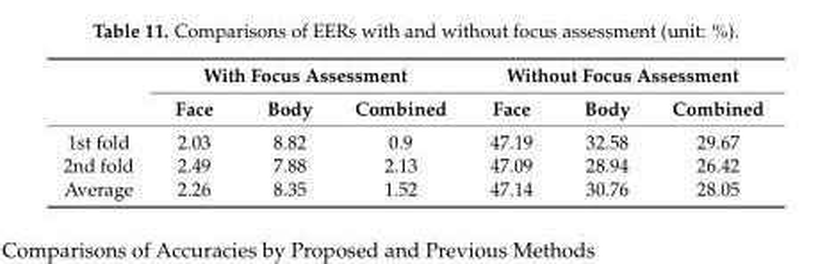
<table><thead><tr><td rowspan="2"></td><td colspan="3">With Focus Assessment</td><td colspan="3">Without Focus Assessment</td></tr><tr><td>Face</td><td>Body</td><td>Combined</td><td>Face</td><td>Body</td><td>Combined</td></tr></thead><tbody><tr><td>1st fold</td><td>2.03</td><td>8.82</td><td>0.9</td><td>47.19</td><td>32.58</td><td>29.67</td></tr><tr><td>2nd fold</td><td>2.49</td><td>7.88</td><td>2.13</td><td>47.09</td><td>28.94</td><td>26.42</td></tr><tr><td>Average</td><td>2.26</td><td>8.35</td><td>1.52</td><td>47.14</td><td>30.76</td><td>28.05</td></tr></tbody></table>